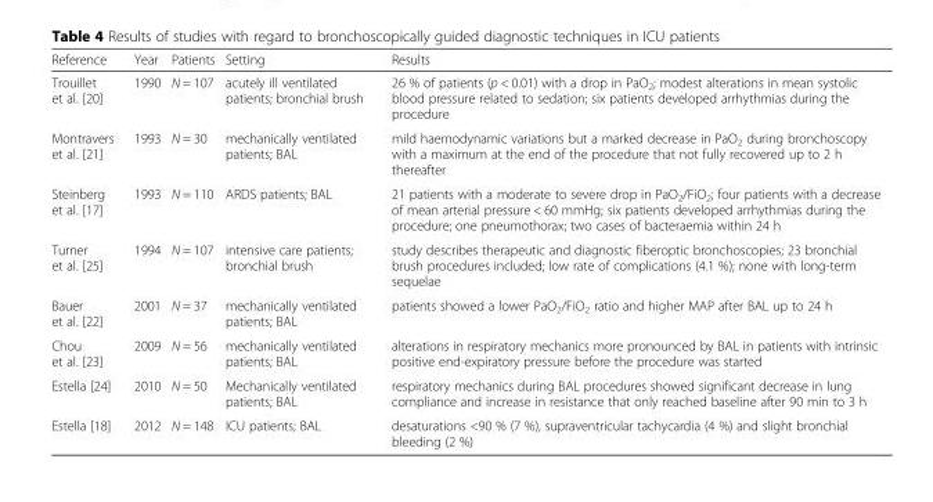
<table><thead><tr><td>Reference</td><td>Year</td><td>Patients</td><td>Setting</td><td>Results</td></tr></thead><tbody><tr><td>Trouillet et al. [20]</td><td>1990</td><td>N = 107</td><td>acutely ill ventilated patients; bronchial brush</td><td>26 % of patients (p &lt; 0.01) with a drop in PaO<sub>2</sub>; modest alterations in mean systolic blood pressure related to sedation; six patients developed arrhythmias during the procedure</td></tr><tr><td>Montravers et al. [21]</td><td>1993</td><td>N = 30</td><td>mechanically ventilated patients; BAL</td><td>mild haemodynamic variations but a marked decrease in PaO<sub>2</sub> during bronchoscopy with a maximum at the end of the procedure that not fully recovered up to 2 h thereafter</td></tr><tr><td>Steinberg et al. [17]</td><td>1993</td><td>N = 110</td><td>ARDS patients; BAL</td><td>21 patients with a moderate to severe drop in PaO<sub>2</sub>/FiO<sub>2</sub>; four patients with a decrease of mean arterial pressure &lt; 60 mmHg; six patients developed arrhythmias during the procedure; one pneumothorax; two cases of bacteraemia within 24 h</td></tr><tr><td>Turner et al. [25]</td><td>1994</td><td>N = 107</td><td>intensive care patients; bronchial brush</td><td>study describes therapeutic and diagnostic fiberoptic bronchoscopies; 23 bronchial brush procedures included; low rate of complications (4.1 %); none with long-term sequelae</td></tr><tr><td>Bauer et al. [22]</td><td>2001</td><td>N = 37</td><td>mechanically ventilated patients; BAL</td><td>patients showed a lower PaO<sub>2</sub>/FiO<sub>2</sub> ratio and higher MAP after BAL up to 24 h</td></tr><tr><td>Chou et al. [23]</td><td>2009</td><td>N = 56</td><td>mechanically ventilated patients; BAL</td><td>alterations in respiratory mechanics more pronounced by BAL in patients with intrinsic positive end-expiratory pressure before the procedure was started</td></tr><tr><td>Estella [24]</td><td>2010</td><td>N = 50</td><td>Mechanically ventilated patients; BAL</td><td>respiratory mechanics during BAL procedures showed significant decrease in lung compliance and increase in resistance that only reached baseline after 90 min to 3 h</td></tr><tr><td>Estella [18]</td><td>2012</td><td>N = 148</td><td>ICU patients; BAL</td><td>desaturations &lt;90 % (7 %), supraventricular tachycardia (4 %) and slight bronchial bleeding (2 %)</td></tr></tbody></table>